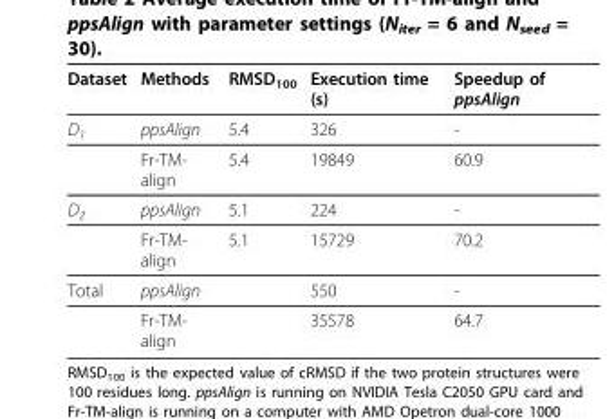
<table><thead><tr><td>Dataset</td><td>Methods</td><td>RMSD<sub>100</sub></td><td>Execution time (s)</td><td>Speedup of ppsAlign</td></tr></thead><tbody><tr><td rowspan="2">D<sub>1</sub></td><td>ppsAlign</td><td>5.4</td><td>326</td><td>-</td></tr><tr><td>Fr-TM- align</td><td>5.4</td><td>19849</td><td>60.9</td></tr><tr><td rowspan="2">D<sub>2</sub></td><td>ppsAlign</td><td>5.1</td><td>224</td><td>-</td></tr><tr><td>Fr-TM- align</td><td>5.1</td><td>15729</td><td>70.2</td></tr><tr><td rowspan="2">Total</td><td>ppsAlign</td><td></td><td>550</td><td>-</td></tr><tr><td>Fr-TM- align</td><td></td><td>35578</td><td>64.7</td></tr></tbody></table>